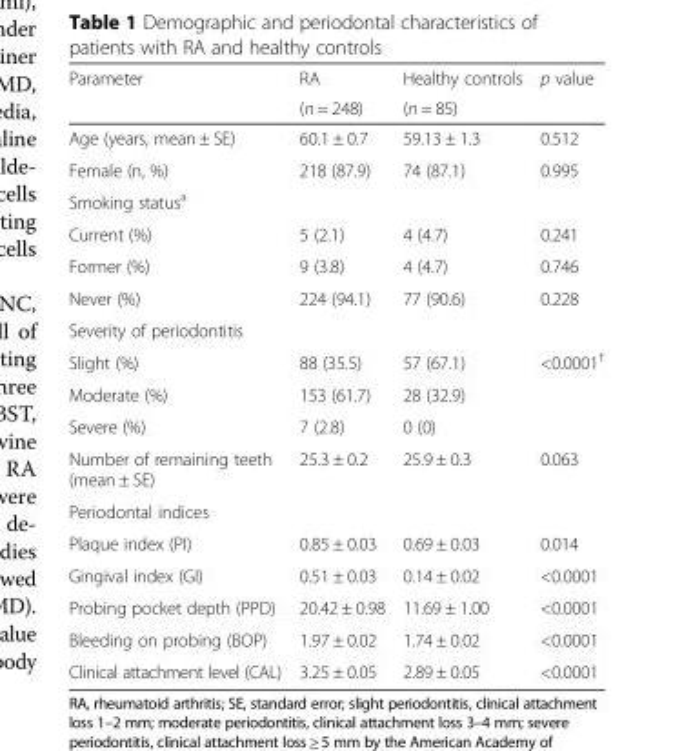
<table><thead><tr><td rowspan="2">Parameter</td><td rowspan="2">RA (n = 248)</td><td rowspan="2">Healthy controls (n = 85)</td><td rowspan="2">p value</td></tr><tr></tr></thead><tbody><tr><td>Age (years, mean ± SE)</td><td>60.1 ± 0.7</td><td>59.13 ± 1.3</td><td>0.512</td></tr><tr><td>Female (n, %)</td><td>218 (87.9)</td><td>74 (87.1)</td><td>0.995</td></tr><tr><td colspan="4">Smoking status<sup>a</sup></td></tr><tr><td>Current (%)</td><td>5 (2.1)</td><td>4 (4.7)</td><td>0.241</td></tr><tr><td>Former (%)</td><td>9 (3.8)</td><td>4 (4.7)</td><td>0.746</td></tr><tr><td>Never (%)</td><td>224 (94.1)</td><td>77 (90.6)</td><td>0.228</td></tr><tr><td colspan="4">Severity of periodontitis</td></tr><tr><td>Slight (%)</td><td>88 (35.5)</td><td>57 (67.1)</td><td>&lt;0.0001<sup>†</sup></td></tr><tr><td>Moderate (%)</td><td>153 (61.7)</td><td>28 (32.9)</td><td></td></tr><tr><td>Severe (%)</td><td>7 (2.8)</td><td>0 (0)</td><td></td></tr><tr><td>Number of remaining teeth (mean ± SE)</td><td>25.3 ± 0.2</td><td>25.9 ± 0.3</td><td>0.063</td></tr><tr><td colspan="4">Periodontal indices</td></tr><tr><td>Plaque index (PI)</td><td>0.85 ± 0.03</td><td>0.69 ± 0.03</td><td>0.014</td></tr><tr><td>Gingival index (GI)</td><td>0.51 ± 0.03</td><td>0.14 ± 0.02</td><td>&lt;0.0001</td></tr><tr><td>Probing pocket depth (PPD)</td><td>20.42 ± 0.98</td><td>11.69 ± 1.00</td><td>&lt;0.0001</td></tr><tr><td>Bleeding on probing (BOP)</td><td>1.97 ± 0.02</td><td>1.74 ± 0.02</td><td>&lt;0.0001</td></tr><tr><td>Clinical attachment level (CAL)</td><td>3.25 ± 0.05</td><td>2.89 ± 0.05</td><td>&lt;0.0001</td></tr></tbody></table>